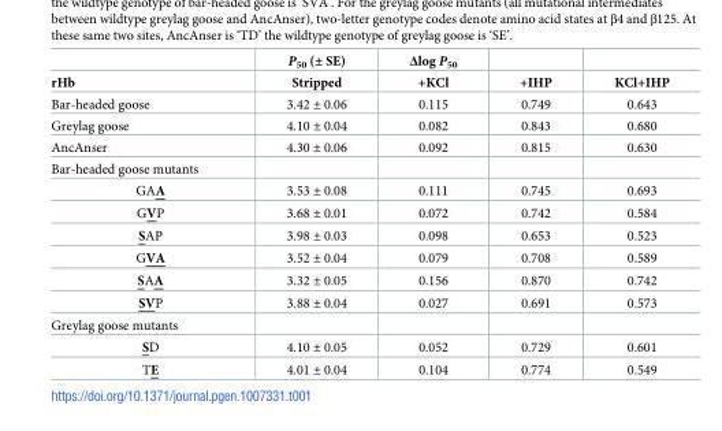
<table><thead><tr><td rowspan="2">rHb</td><td rowspan="2">P<sub>50</sub> (± SE) Stripped</td><td rowspan="2">Δlog P<sub>50</sub> +KCl</td><td rowspan="2">+IHP</td><td rowspan="2">KCl+IHP</td></tr><tr></tr></thead><tbody><tr><td>Bar-headed goose</td><td>3.42 ± 0.06</td><td>0.115</td><td>0.749</td><td>0.643</td></tr><tr><td>Greylag goose</td><td>4.10 ± 0.04</td><td>0.082</td><td>0.843</td><td>0.680</td></tr><tr><td>AncAnser</td><td>4.30 ± 0.06</td><td>0.092</td><td>0.815</td><td>0.630</td></tr><tr><td colspan="5">Bar-headed goose mutants</td></tr><tr><td>GAA</td><td>3.53 ± 0.08</td><td>0.111</td><td>0.745</td><td>0.693</td></tr><tr><td>GVP</td><td>3.68 ± 0.01</td><td>0.072</td><td>0.742</td><td>0.584</td></tr><tr><td>SAP</td><td>3.98 ± 0.03</td><td>0.098</td><td>0.653</td><td>0.523</td></tr><tr><td>GVA</td><td>3.52 ± 0.04</td><td>0.079</td><td>0.708</td><td>0.589</td></tr><tr><td>SAA</td><td>3.32 ± 0.05</td><td>0.156</td><td>0.870</td><td>0.742</td></tr><tr><td>SVP</td><td>3.88 ± 0.04</td><td>0.027</td><td>0.691</td><td>0.573</td></tr><tr><td colspan="5">Greylag goose mutants</td></tr><tr><td>SD</td><td>4.10 ± 0.05</td><td>0.052</td><td>0.729</td><td>0.601</td></tr><tr><td>TE</td><td>4.01 ± 0.04</td><td>0.104</td><td>0.774</td><td>0.549</td></tr></tbody></table>